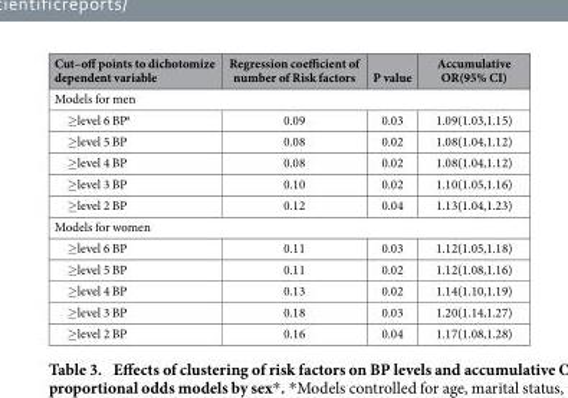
<table><thead><tr><td>Cut–off points to dichotomize dependent variable</td><td>Regression coefficient of number of Risk factors</td><td>P value</td><td>Accumulative OR(95% CI)</td></tr></thead><tbody><tr><td colspan="4">Models for men</td></tr><tr><td>≥ level 6 BP<sup>a</sup></td><td>0.09</td><td>0.03</td><td>1.09(1.03,1.15)</td></tr><tr><td>≥ level 5 BP</td><td>0.08</td><td>0.02</td><td>1.08(1.04,1.12)</td></tr><tr><td>≥ level 4 BP</td><td>0.08</td><td>0.02</td><td>1.08(1.04,1.12)</td></tr><tr><td>≥ level 3 BP</td><td>0.10</td><td>0.02</td><td>1.10(1.05,1.16)</td></tr><tr><td>≥ level 2 BP</td><td>0.12</td><td>0.04</td><td>1.13(1.04,1.23)</td></tr><tr><td colspan="4">Models for women</td></tr><tr><td>≥ level 6 BP</td><td>0.11</td><td>0.03</td><td>1.12(1.05,1.18)</td></tr><tr><td>≥ level 5 BP</td><td>0.11</td><td>0.02</td><td>1.12(1.08,1.16)</td></tr><tr><td>≥ level 4 BP</td><td>0.13</td><td>0.02</td><td>1.14(1.10,1.19)</td></tr><tr><td>≥ level 3 BP</td><td>0.18</td><td>0.03</td><td>1.20(1.14,1.27)</td></tr><tr><td>≥ level 2 BP</td><td>0.16</td><td>0.04</td><td>1.17(1.08,1.28)</td></tr></tbody></table>